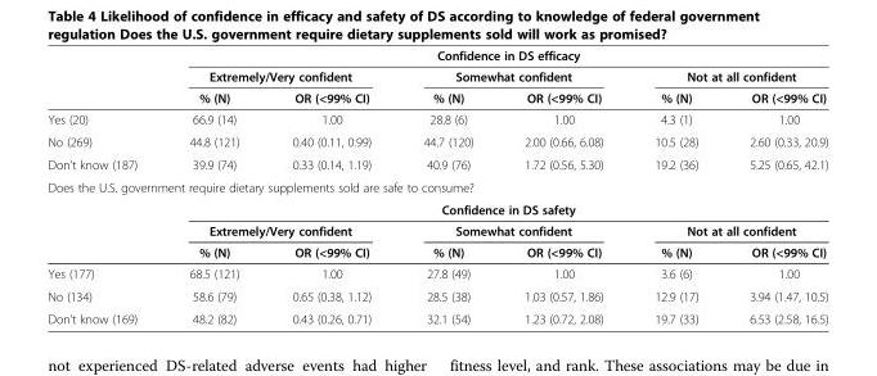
<table><thead><tr><td rowspan="3"></td><td colspan="6">Confidence in DS efficacy</td></tr><tr><td colspan="2">Extremely/Very confident</td><td colspan="2">Somewhat confident</td><td colspan="2">Not at all confident</td></tr><tr><td>% (N)</td><td>OR (&lt;99% CI)</td><td>% (N)</td><td>OR (&lt;99% CI)</td><td>% (N)</td><td>OR (&lt;99% CI)</td></tr></thead><tbody><tr><td>Yes (20)</td><td>66.9 (14)</td><td>1.00</td><td>28.8 (6)</td><td>1.00</td><td>4.3 (1)</td><td>1.00</td></tr><tr><td>No (269)</td><td>44.8 (121)</td><td>0.40 (0.11, 0.99)</td><td>44.7 (120)</td><td>2.00 (0.66, 6.08)</td><td>10.5 (28)</td><td>2.60 (0.33, 20.9)</td></tr><tr><td>Don’t know (187)</td><td>39.9 (74)</td><td>0.33 (0.14, 1.19)</td><td>40.9 (76)</td><td>1.72 (0.56, 5.30)</td><td>19.2 (36)</td><td>5.25 (0.65, 42.1)</td></tr><tr><td colspan="7">Does the U.S. government require dietary supplements sold are safe to consume?</td></tr><tr><td></td><td colspan="6">Confidence in DS safety</td></tr><tr><td></td><td colspan="2">Extremely/Very confident</td><td colspan="2">Somewhat confident</td><td colspan="2">Not at all confident</td></tr><tr><td></td><td>% (N)</td><td>OR (&lt;99% CI)</td><td>% (N)</td><td>OR (&lt;99% CI)</td><td>% (N)</td><td>OR (&lt;99% CI)</td></tr><tr><td>Yes (177)</td><td>68.5 (121)</td><td>1.00</td><td>27.8 (49)</td><td>1.00</td><td>3.6 (6)</td><td>1.00</td></tr><tr><td>No (134)</td><td>58.6 (79)</td><td>0.65 (0.38, 1.12)</td><td>28.5 (38)</td><td>1.03 (0.57, 1.86)</td><td>12.9 (17)</td><td>3.94 (1.47, 10.5)</td></tr><tr><td>Don’t know (169)</td><td>48.2 (82)</td><td>0.43 (0.26, 0.71)</td><td>32.1 (54)</td><td>1.23 (0.72, 2.08)</td><td>19.7 (33)</td><td>6.53 (2.58, 16.5)</td></tr></tbody></table>